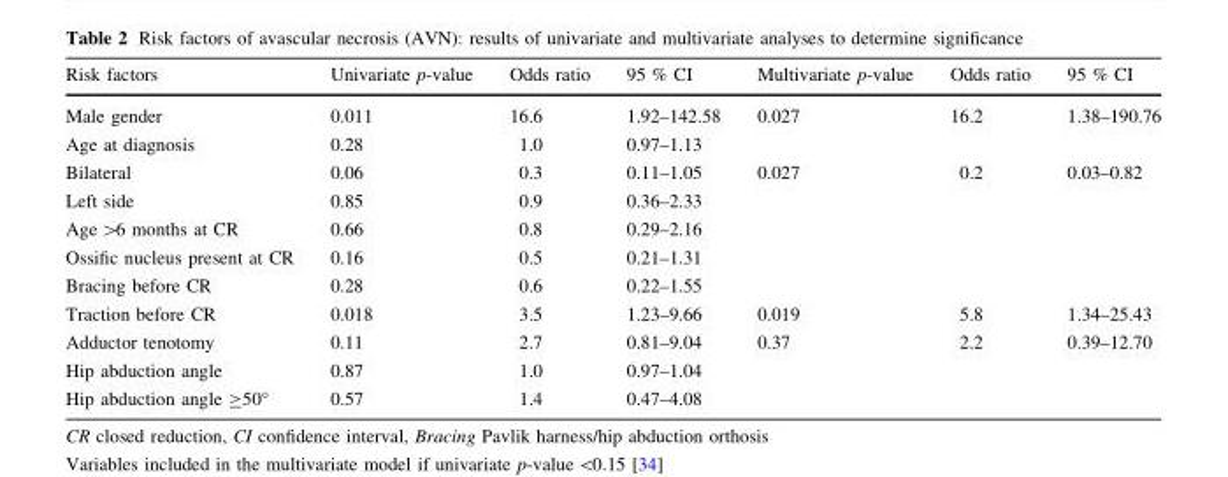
<table><thead><tr><td>Risk factors</td><td>Univariate p-value</td><td>Odds ratio</td><td>95 % CI</td><td>Multivariate p-value</td><td>Odds ratio</td><td>95 % CI</td></tr></thead><tbody><tr><td>Male gender</td><td>0.011</td><td>16.6</td><td>1.92–142.58</td><td>0.027</td><td>16.2</td><td>1.38–190.76</td></tr><tr><td>Age at diagnosis</td><td>0.28</td><td>1.0</td><td>0.97–1.13</td><td></td><td></td><td></td></tr><tr><td>Bilateral</td><td>0.06</td><td>0.3</td><td>0.11–1.05</td><td>0.027</td><td>0.2</td><td>0.03–0.82</td></tr><tr><td>Left side</td><td>0.85</td><td>0.9</td><td>0.36–2.33</td><td></td><td></td><td></td></tr><tr><td>Age &gt;6 months at CR</td><td>0.66</td><td>0.8</td><td>0.29–2.16</td><td></td><td></td><td></td></tr><tr><td>Ossific nucleus present at CR</td><td>0.16</td><td>0.5</td><td>0.21–1.31</td><td></td><td></td><td></td></tr><tr><td>Bracing before CR</td><td>0.28</td><td>0.6</td><td>0.22–1.55</td><td></td><td></td><td></td></tr><tr><td>Traction before CR</td><td>0.018</td><td>3.5</td><td>1.23–9.66</td><td>0.019</td><td>5.8</td><td>1.34–25.43</td></tr><tr><td>Adductor tenotomy</td><td>0.11</td><td>2.7</td><td>0.81–9.04</td><td>0.37</td><td>2.2</td><td>0.39–12.70</td></tr><tr><td>Hip abduction angle</td><td>0.87</td><td>1.0</td><td>0.97–1.04</td><td></td><td></td><td></td></tr><tr><td>Hip abduction angle ≥50°</td><td>0.57</td><td>1.4</td><td>0.47–4.08</td><td></td><td></td><td></td></tr></tbody></table>